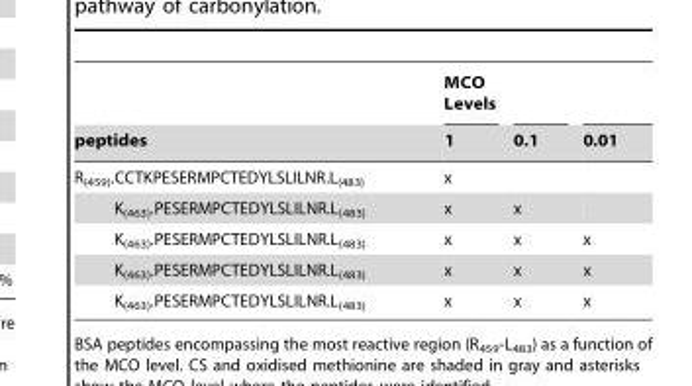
<table><thead><tr><td rowspan="2">peptides</td><td rowspan="2">MCO Levels 1</td><td rowspan="2">0.1</td><td rowspan="2">0.01</td></tr><tr></tr></thead><tbody><tr><td>R<sub>(459)</sub>.CCTKPESERMPCTEDYLSLILNR.L<sub>(483)</sub></td><td>x</td><td></td><td></td></tr><tr><td>K<sub>(463)</sub>.PESERMPCTEDYLSLILNR.L<sub>(483)</sub></td><td>x</td><td>x</td><td></td></tr><tr><td>K<sub>(463)</sub>.PESERMPCTEDYLSLILNR.L<sub>(483)</sub></td><td>x</td><td>x</td><td>x</td></tr><tr><td>K<sub>(463)</sub>.PESERMPCTEDYLSLILNR.L<sub>(483)</sub></td><td>x</td><td>x</td><td>x</td></tr><tr><td>K<sub>(463)</sub>.PESERMPCTEDYLSLILNR.L<sub>(483)</sub></td><td>x</td><td>x</td><td>x</td></tr></tbody></table>